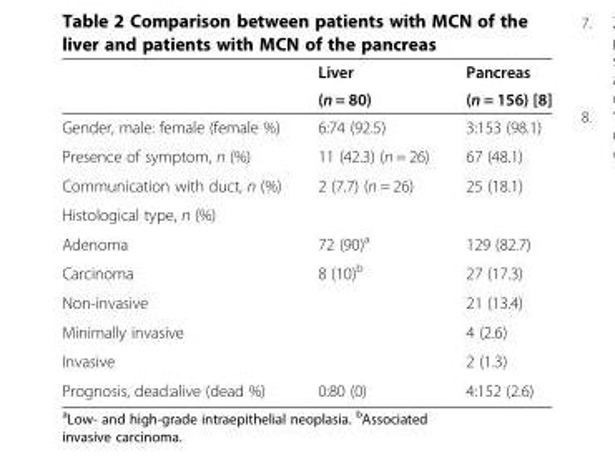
<table><thead><tr><td rowspan="2"></td><td rowspan="2">Liver (n = 80)</td><td rowspan="2">Pancreas (n = 156) [8]</td></tr><tr></tr></thead><tbody><tr><td>Gender, male: female (female %)</td><td>6:74 (92.5)</td><td>3:153 (98.1)</td></tr><tr><td>Presence of symptom, n (%)</td><td>11 (42.3) (n = 26)</td><td>67 (48.1)</td></tr><tr><td>Communication with duct, n (%)</td><td>2 (7.7) (n = 26)</td><td>25 (18.1)</td></tr><tr><td colspan="3">Histological type, n (%)</td></tr><tr><td>Adenoma</td><td>72 (90)<sup>a</sup></td><td>129 (82.7)</td></tr><tr><td>Carcinoma</td><td>8 (10)<sup>b</sup></td><td>27 (17.3)</td></tr><tr><td>Non-invasive</td><td></td><td>21 (13.4)</td></tr><tr><td>Minimally invasive</td><td></td><td>4 (2.6)</td></tr><tr><td>Invasive</td><td></td><td>2 (1.3)</td></tr><tr><td>Prognosis, dead:alive (dead %)</td><td>0:80 (0)</td><td>4:152 (2.6)</td></tr></tbody></table>